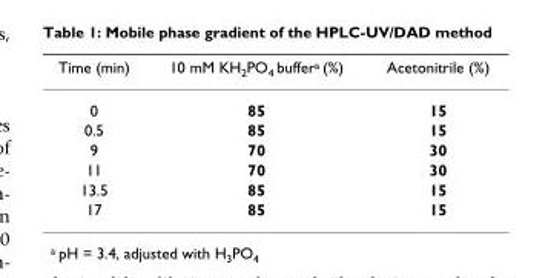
<table><thead><tr><td>Time (min)</td><td>10 mM KH<sub>2</sub>PO<sub>4</sub> buffer<sup>a</sup> (%)</td><td>Acetonitrile (%)</td></tr></thead><tbody><tr><td>0</td><td>85</td><td>15</td></tr><tr><td>0.5</td><td>85</td><td>15</td></tr><tr><td>9</td><td>70</td><td>30</td></tr><tr><td>11</td><td>70</td><td>30</td></tr><tr><td>13.5</td><td>85</td><td>15</td></tr><tr><td>17</td><td>85</td><td>15</td></tr></tbody></table>